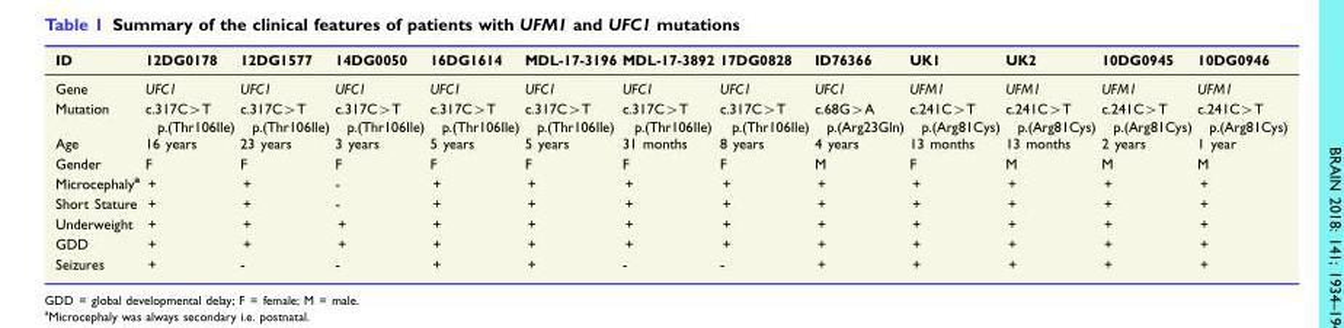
<table><thead><tr><td>ID</td><td>12DG0178</td><td>12DG1577</td><td>14DG0050</td><td>16DG1614</td><td>MDL-17-3196</td><td>MDL-17-3892</td><td>17DG0828</td><td>ID76366</td><td>UK1</td><td>UK2</td><td>10DG0945</td><td>10DG0946</td></tr></thead><tbody><tr><td>Gene</td><td>UFC1</td><td>UFC1</td><td>UFC1</td><td>UFC1</td><td>UFC1</td><td>UFC1</td><td>UFC1</td><td>UFC1</td><td>UFM1</td><td>UFM1</td><td>UFM1</td><td>UFM1</td></tr><tr><td>Mutation</td><td>c.317C&gt;T p.(Thr106Ile)</td><td>c.317C&gt;T p.(Thr106Ile)</td><td>c.317C&gt;T p.(Thr106Ile)</td><td>c.317C&gt;T p.(Thr106Ile)</td><td>c.317C&gt;T p.(Thr106Ile)</td><td>c.317C&gt;T p.(Thr106Ile)</td><td>c.317C&gt;T p.(Thr106Ile)</td><td>c.68G&gt;A p.(Arg23Gln)</td><td>c.241C&gt;T p.(Arg81Cys)</td><td>c.241C&gt;T p.(Arg81Cys)</td><td>c.241C&gt;T p.(Arg81Cys)</td><td>c.241C&gt;T p.(Arg81Cys)</td></tr><tr><td>Age</td><td>16 years</td><td>23 years</td><td>3 years</td><td>5 years</td><td>5 years</td><td>31 months</td><td>8 years</td><td>4 years</td><td>13 months</td><td>13 months</td><td>2 years</td><td>1 year</td></tr><tr><td>Gender</td><td>F</td><td>F</td><td>F</td><td>F</td><td>F</td><td>F</td><td>F</td><td>M</td><td>F</td><td>M</td><td>M</td><td>M</td></tr><tr><td>Microcephaly<sup>a</sup></td><td>+</td><td>+</td><td>-</td><td>+</td><td>+</td><td>+</td><td>+</td><td>+</td><td>+</td><td>+</td><td>+</td><td>+</td></tr><tr><td>Short Stature</td><td>+</td><td>+</td><td>-</td><td>+</td><td>+</td><td>+</td><td>+</td><td>+</td><td>+</td><td>+</td><td>+</td><td>+</td></tr><tr><td>Underweight</td><td>+</td><td>+</td><td>+</td><td>+</td><td>+</td><td>+</td><td>+</td><td>+</td><td>+</td><td>+</td><td>+</td><td>+</td></tr><tr><td>GDD</td><td>+</td><td>+</td><td>+</td><td>+</td><td>+</td><td>+</td><td>+</td><td>+</td><td>+</td><td>+</td><td>+</td><td>+</td></tr><tr><td>Seizures</td><td>+</td><td>-</td><td>-</td><td>+</td><td>+</td><td>-</td><td>-</td><td>+</td><td>+</td><td>+</td><td>+</td><td>+</td></tr></tbody></table>